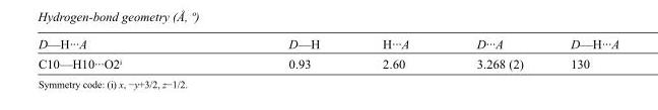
<table><tbody><tr><td>D—H···A</td><td>D—H</td><td>H···A</td><td>D···A</td><td>D—H···A</td></tr><tr><td>C10—H10···O2<sup>i</sup></td><td>0.93</td><td>2.60</td><td>3.268 (2)</td><td>130</td></tr></tbody></table>